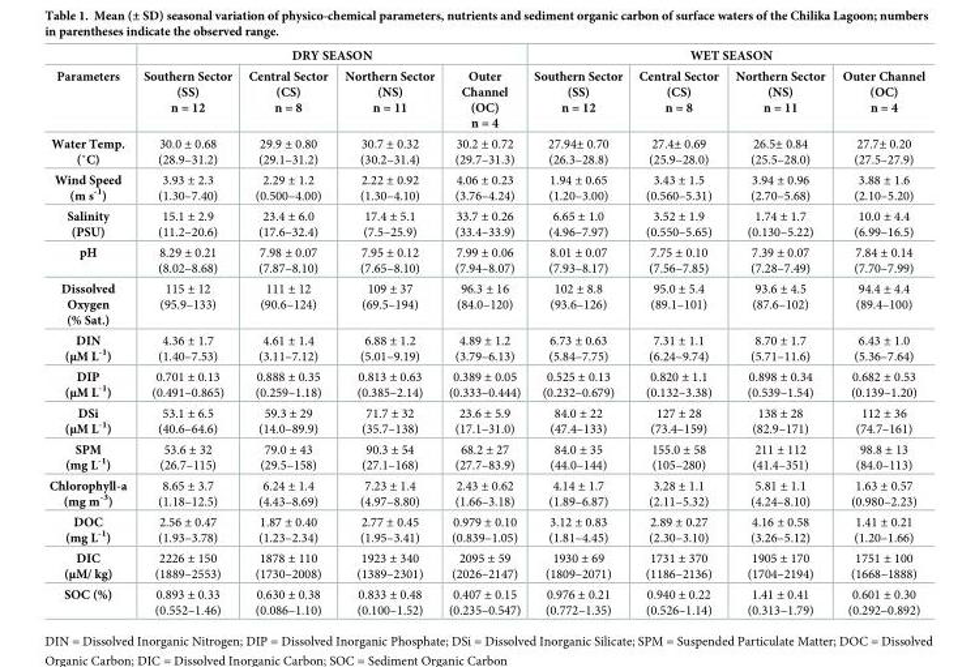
<table><thead><tr><td rowspan="2">Parameters</td><td colspan="4">DRY SEASON</td><td colspan="4">WET SEASON</td></tr><tr><td>Southern Sector (SS) n = 12</td><td>Central Sector (CS) n = 8</td><td>Northern Sector (NS) n = 11</td><td>Outer Channel (OC) n = 4</td><td>Southern Sector (SS) n = 12</td><td>Central Sector (CS) n = 8</td><td>Northern Sector (NS) n = 11</td><td>Outer Channel (OC) n = 4</td></tr></thead><tbody><tr><td>Water Temp. (˚C)</td><td>30.0 ± 0.68 (28.9–31.2)</td><td>29.9 ± 0.80 (29.1–31.2)</td><td>30.7 ± 0.32 (30.2–31.4)</td><td>30.2 ± 0.72 (29.7–31.3)</td><td>27.94± 0.70 (26.3–28.8)</td><td>27.4± 0.69 (25.9–28.0)</td><td>26.5± 0.84 (25.5–28.0)</td><td>27.7± 0.20 (27.5–27.9)</td></tr><tr><td>Wind Speed (m s<sup>-1</sup>)</td><td>3.93 ± 2.3 (1.30–7.40)</td><td>2.29 ± 1.2 (0.500–4.00)</td><td>2.22 ± 0.92 (1.30–4.10)</td><td>4.06 ± 0.23 (3.76–4.24)</td><td>1.94 ± 0.65 (1.20–3.00)</td><td>3.43 ± 1.5 (0.560–5.31)</td><td>3.94 ± 0.96 (2.70–5.68)</td><td>3.88 ± 1.6 (2.10–5.20)</td></tr><tr><td>Salinity (PSU)</td><td>15.1 ± 2.9 (11.2–20.6)</td><td>23.4 ± 6.0 (17.6–32.4)</td><td>17.4 ± 5.1 (7.5–25.9)</td><td>33.7 ± 0.26 (33.4–33.9)</td><td>6.65 ± 1.0 (4.96–7.97)</td><td>3.52 ± 1.9 (0.550–5.65)</td><td>1.74 ± 1.7 (0.130–5.22)</td><td>10.0 ± 4.4 (6.99–16.5)</td></tr><tr><td>pH</td><td>8.29 ± 0.21 (8.02–8.68)</td><td>7.98 ± 0.07 (7.87–8.10)</td><td>7.95 ± 0.12 (7.65–8.10)</td><td>7.99 ± 0.06 (7.94–8.07)</td><td>8.01 ± 0.07 (7.93–8.17)</td><td>7.75 ± 0.10 (7.56–7.85)</td><td>7.39 ± 0.07 (7.28–7.49)</td><td>7.84 ± 0.14 (7.70–7.99)</td></tr><tr><td>Dissolved Oxygen (% Sat.)</td><td>115 ± 12 (95.9–133)</td><td>111 ± 12 (90.6–124)</td><td>109 ± 37 (69.5–194)</td><td>96.3 ± 16 (84.0–120)</td><td>102 ± 8.8 (93.6–126)</td><td>95.0 ± 5.4 (89.1–101)</td><td>93.6 ± 4.5 (87.6–102)</td><td>94.4 ± 4.4 (89.4–100)</td></tr><tr><td>DIN (μM L<sup>-1</sup>)</td><td>4.36 ± 1.7 (1.40–7.53)</td><td>4.61 ± 1.4 (3.11–7.12)</td><td>6.88 ± 1.2 (5.01–9.19)</td><td>4.89 ± 1.2 (3.79–6.13)</td><td>6.73 ± 0.63 (5.84–7.75)</td><td>7.31 ± 1.1 (6.24–9.74)</td><td>8.70 ± 1.7 (5.71–11.6)</td><td>6.43 ± 1.0 (5.36–7.64)</td></tr><tr><td>DIP (μM L<sup>-1</sup>)</td><td>0.701 ± 0.13 (0.491–0.865)</td><td>0.888 ± 0.35 (0.259–1.18)</td><td>0.813 ± 0.63 (0.385–2.14)</td><td>0.389 ± 0.05 (0.333–0.444)</td><td>0.525 ± 0.13 (0.232–0.679)</td><td>0.820 ± 1.1 (0.132–3.38)</td><td>0.898 ± 0.34 (0.539–1.54)</td><td>0.682 ± 0.53 (0.139–1.20)</td></tr><tr><td>DSi (μM L<sup>-1</sup>)</td><td>53.1 ± 6.5 (40.6–64.6)</td><td>59.3 ± 29 (14.0–89.9)</td><td>71.7 ± 32 (35.7–138)</td><td>23.6 ± 5.9 (17.1–31.0)</td><td>84.0 ± 22 (47.4–133)</td><td>127 ± 28 (73.4–159)</td><td>138 ± 28 (82.9–171)</td><td>112 ± 36 (74.7–161)</td></tr><tr><td>SPM (mg L<sup>-1</sup>)</td><td>53.6 ± 32 (26.7–115)</td><td>79.0 ± 43 (29.5–158)</td><td>90.3 ± 54 (27.1–168)</td><td>68.2 ± 27 (27.7–83.9)</td><td>84.0 ± 35 (44.0–144)</td><td>155.0 ± 58 (105–280)</td><td>211 ± 112 (41.4–351)</td><td>98.8 ± 13 (84.0–113)</td></tr><tr><td>Chlorophyll-a (mg m<sup>-3</sup>)</td><td>8.65 ± 3.7 (1.18–12.5)</td><td>6.24 ± 1.4 (4.43–8.69)</td><td>7.23 ± 1.4 (4.97–8.80)</td><td>2.43 ± 0.62 (1.66–3.18)</td><td>4.14 ± 1.7 (1.89–6.87)</td><td>3.28 ± 1.1 (2.11–5.32)</td><td>5.81 ± 1.1 (4.24–8.10)</td><td>1.63 ± 0.57 (0.980–2.23)</td></tr><tr><td>DOC (mg L<sup>-1</sup>)</td><td>2.56 ± 0.47 (1.93–3.78)</td><td>1.87 ± 0.40 (1.23–2.34)</td><td>2.77 ± 0.45 (1.95–3.41)</td><td>0.979 ± 0.10 (0.839–1.05)</td><td>3.12 ± 0.83 (1.81–4.45)</td><td>2.89 ± 0.27 (2.30–3.10)</td><td>4.16 ± 0.58 (3.26–5.12)</td><td>1.41 ± 0.21 (1.20–1.66)</td></tr><tr><td>DIC (μM/ kg)</td><td>2226 ± 150 (1889–2553)</td><td>1878 ± 110 (1730–2008)</td><td>1923 ± 340 (1389–2301)</td><td>2095 ± 59 (2026–2147)</td><td>1930 ± 69 (1809–2071)</td><td>1731 ± 370 (1186–2136)</td><td>1905 ± 170 (1704–2194)</td><td>1751 ± 100 (1668–1888)</td></tr><tr><td>SOC (%)</td><td>0.893 ± 0.33 (0.552–1.46)</td><td>0.630 ± 0.38 (0.086–1.10)</td><td>0.833 ± 0.48 (0.100–1.52)</td><td>0.407 ± 0.15 (0.235–0.547)</td><td>0.976 ± 0.21 (0.772–1.35)</td><td>0.940 ± 0.22 (0.526–1.14)</td><td>1.41 ± 0.41 (0.313–1.79)</td><td>0.601 ± 0.30 (0.292–0.892)</td></tr></tbody></table>